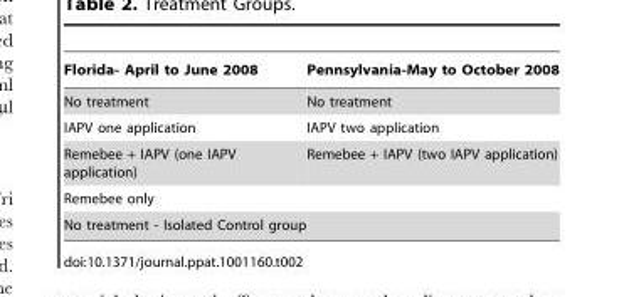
<table><thead><tr><td>Florida- April to June 2008</td><td>Pennsylvania-May to October 2008</td></tr></thead><tbody><tr><td>No treatment</td><td>No treatment</td></tr><tr><td>IAPV one application</td><td>IAPV two application</td></tr><tr><td>Remebee + IAPV (one IAPV application)</td><td>Remebee + IAPV (two IAPV application)</td></tr><tr><td colspan="2">Remebee only</td></tr><tr><td>No treatment - Isolated Control group</td><td></td></tr></tbody></table>